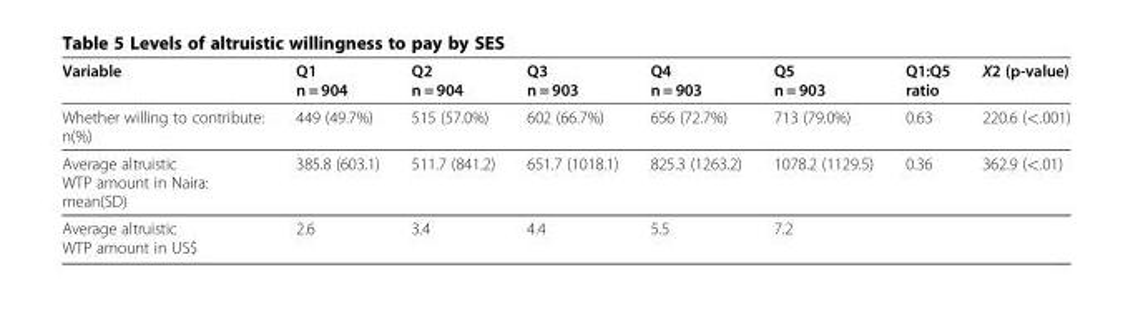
<table><thead><tr><td>Variable</td><td>Q1 n = 904</td><td>Q2 n = 904</td><td>Q3 n = 903</td><td>Q4 n = 903</td><td>Q5 n = 903</td><td>Q1:Q5 ratio</td><td>X2 (p-value)</td></tr></thead><tbody><tr><td>Whether willing to contribute: n(%)</td><td>449 (49.7%)</td><td>515 (57.0%)</td><td>602 (66.7%)</td><td>656 (72.7%)</td><td>713 (79.0%)</td><td>0.63</td><td>220.6 (&lt;.001)</td></tr><tr><td>Average altruistic WTP amount in Naira: mean(SD)</td><td>385.8 (603.1)</td><td>511.7 (841.2)</td><td>651.7 (1018.1)</td><td>825.3 (1263.2)</td><td>1078.2 (1129.5)</td><td>0.36</td><td>362.9 (&lt;.01)</td></tr><tr><td>Average altruistic WTP amount in US$</td><td>2.6</td><td>3.4</td><td>4.4</td><td>5.5</td><td>7.2</td><td></td><td></td></tr></tbody></table>